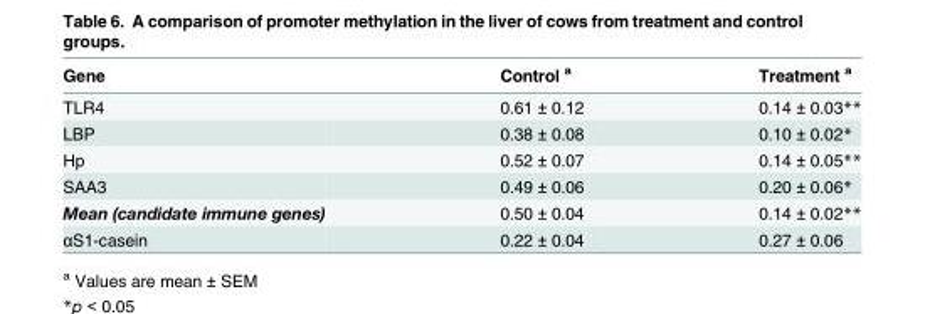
<table><thead><tr><td>Gene</td><td>Control <sup>a</sup></td><td>Treatment <sup>a</sup></td></tr></thead><tbody><tr><td>TLR4</td><td>0.61 ± 0.12</td><td>0.14 ± 0.03**</td></tr><tr><td>LBP</td><td>0.38 ± 0.08</td><td>0.10 ± 0.02*</td></tr><tr><td>Hp</td><td>0.52 ± 0.07</td><td>0.14 ± 0.05**</td></tr><tr><td>SAA3</td><td>0.49 ± 0.06</td><td>0.20 ± 0.06*</td></tr><tr><td>Mean (candidate immune genes)</td><td>0.50 ± 0.04</td><td>0.14 ± 0.02**</td></tr><tr><td>αS1-casein</td><td>0.22 ± 0.04</td><td>0.27 ± 0.06</td></tr></tbody></table>